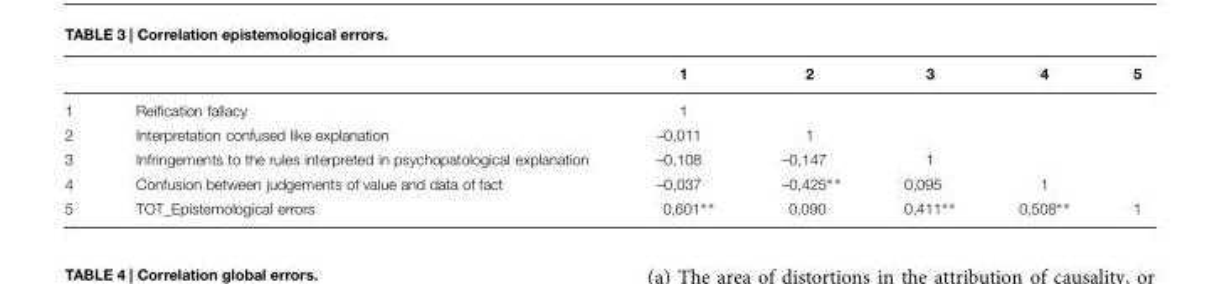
<table><thead><tr><td></td><td></td><td>1</td><td>2</td><td>3</td><td>4</td><td>5</td></tr></thead><tbody><tr><td>1</td><td>Reification fallacy</td><td>1</td><td></td><td></td><td></td><td></td></tr><tr><td>2</td><td>Interpretation confused like explanation</td><td>–0,011</td><td>1</td><td></td><td></td><td></td></tr><tr><td>3</td><td>Infringements to the rules interpreted in psychopatological explanation</td><td>–0,108</td><td>–0,147</td><td>1</td><td></td><td></td></tr><tr><td>4</td><td>Confusion between judgements of value and data of fact</td><td>–0,037</td><td>–0,425∗ ∗</td><td>0,095</td><td>1</td><td></td></tr><tr><td>5</td><td>TOT_Epistemological errors</td><td>0,601∗∗</td><td>0,090</td><td>0,411∗∗</td><td>0,508∗∗</td><td>1</td></tr></tbody></table>